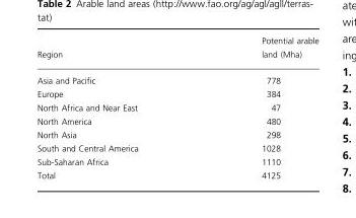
<table><thead><tr><td>Region</td><td>Potential arable land (Mha)</td></tr></thead><tbody><tr><td>Asia and Pacific</td><td>778</td></tr><tr><td>Europe</td><td>384</td></tr><tr><td>North Africa and Near East</td><td>47</td></tr><tr><td>North America</td><td>480</td></tr><tr><td>North Asia</td><td>298</td></tr><tr><td>South and Central America</td><td>1028</td></tr><tr><td>Sub-Saharan Africa</td><td>1110</td></tr><tr><td>Total</td><td>4125</td></tr></tbody></table>